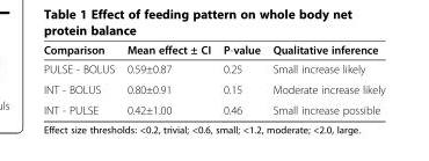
<table><thead><tr><td>Comparison</td><td>Mean effect ± CI</td><td>P-value</td><td>Qualitative inference</td></tr></thead><tbody><tr><td>PULSE - BOLUS</td><td>0.59±0.87</td><td>0.25</td><td>Small increase likely</td></tr><tr><td>INT - BOLUS</td><td>0.80±0.91</td><td>0.15</td><td>Moderate increase likely</td></tr><tr><td>INT - PULSE</td><td>0.42±1.00</td><td>0.46</td><td>Small increase possible</td></tr></tbody></table>